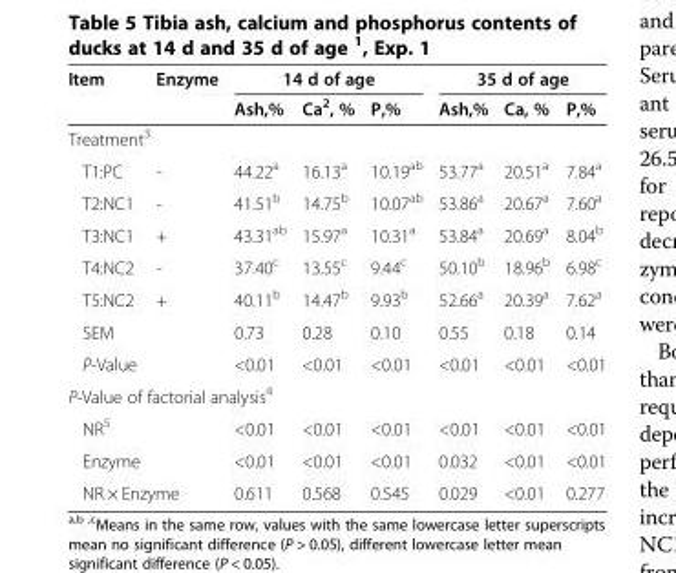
<table><thead><tr><td rowspan="2">Item</td><td rowspan="2">Enzyme</td><td colspan="3">14 d of age</td><td colspan="3">35 d of age</td></tr><tr><td>Ash,%</td><td>Ca<sup>2</sup>, %</td><td>P,%</td><td>Ash,%</td><td>Ca, %</td><td>P,%</td></tr></thead><tbody><tr><td colspan="8">Treatment<sup>3</sup></td></tr><tr><td>T1:PC</td><td>-</td><td>44.22<sup>a</sup></td><td>16.13<sup>a</sup></td><td>10.19<sup>ab</sup></td><td>53.77<sup>a</sup></td><td>20.51<sup>a</sup></td><td>7.84<sup>a</sup></td></tr><tr><td>T2:NC1</td><td>-</td><td>41.51<sup>b</sup></td><td>14.75<sup>b</sup></td><td>10.07<sup>ab</sup></td><td>53.86<sup>a</sup></td><td>20.67<sup>a</sup></td><td>7.60<sup>a</sup></td></tr><tr><td>T3:NC1</td><td>+</td><td>43.31<sup>ab</sup></td><td>15.97<sup>a</sup></td><td>10.31<sup>a</sup></td><td>53.84<sup>a</sup></td><td>20.69<sup>a</sup></td><td>8.04<sup>b</sup></td></tr><tr><td>T4:NC2</td><td>-</td><td>37.40<sup>c</sup></td><td>13.55<sup>c</sup></td><td>9.44<sup>c</sup></td><td>50.10<sup>b</sup></td><td>18.96<sup>b</sup></td><td>6.98<sup>c</sup></td></tr><tr><td>T5:NC2</td><td>+</td><td>40.11<sup>b</sup></td><td>14.47<sup>b</sup></td><td>9.93<sup>b</sup></td><td>52.66<sup>a</sup></td><td>20.39<sup>a</sup></td><td>7.62<sup>a</sup></td></tr><tr><td>SEM</td><td></td><td>0.73</td><td>0.28</td><td>0.10</td><td>0.55</td><td>0.18</td><td>0.14</td></tr><tr><td>P-Value</td><td></td><td>&lt;0.01</td><td>&lt;0.01</td><td>&lt;0.01</td><td>&lt;0.01</td><td>&lt;0.01</td><td>&lt;0.01</td></tr><tr><td colspan="8">P-Value of factorial analysis<sup>4</sup></td></tr><tr><td>NR<sup>5</sup></td><td></td><td>&lt;0.01</td><td>&lt;0.01</td><td>&lt;0.01</td><td>&lt;0.01</td><td>&lt;0.01</td><td>&lt;0.01</td></tr><tr><td>Enzyme</td><td></td><td>&lt;0.01</td><td>&lt;0.01</td><td>&lt;0.01</td><td>0.032</td><td>&lt;0.01</td><td>&lt;0.01</td></tr><tr><td colspan="2">NR × Enzyme</td><td>0.611</td><td>0.568</td><td>0.545</td><td>0.029</td><td>&lt;0.01</td><td>0.277</td></tr></tbody></table>